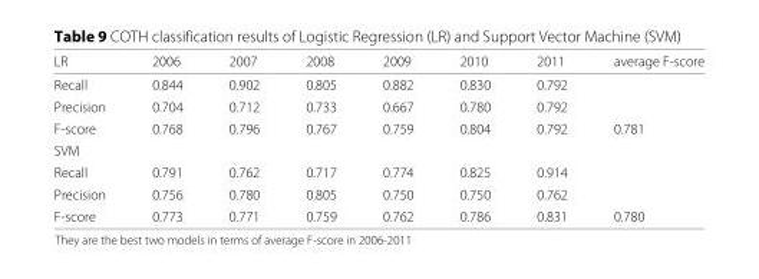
<table><thead><tr><td>LR</td><td>2006</td><td>2007</td><td>2008</td><td>2009</td><td>2010</td><td>2011</td><td>average F-score</td></tr></thead><tbody><tr><td>Recall</td><td>0.844</td><td>0.902</td><td>0.805</td><td>0.882</td><td>0.830</td><td>0.792</td><td></td></tr><tr><td>Precision</td><td>0.704</td><td>0.712</td><td>0.733</td><td>0.667</td><td>0.780</td><td>0.792</td><td></td></tr><tr><td>F-score</td><td>0.768</td><td>0.796</td><td>0.767</td><td>0.759</td><td>0.804</td><td>0.792</td><td>0.781</td></tr><tr><td colspan="8">SVM</td></tr><tr><td>Recall</td><td>0.791</td><td>0.762</td><td>0.717</td><td>0.774</td><td>0.825</td><td>0.914</td><td></td></tr><tr><td>Precision</td><td>0.756</td><td>0.780</td><td>0.805</td><td>0.750</td><td>0.750</td><td>0.762</td><td></td></tr><tr><td>F-score</td><td>0.773</td><td>0.771</td><td>0.759</td><td>0.762</td><td>0.786</td><td>0.831</td><td>0.780</td></tr></tbody></table>